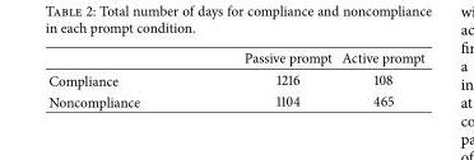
<table><thead><tr><td></td><td>Passive prompt</td><td>Active prompt</td></tr></thead><tbody><tr><td>Compliance</td><td>1216</td><td>108</td></tr><tr><td>Noncompliance</td><td>1104</td><td>465</td></tr></tbody></table>